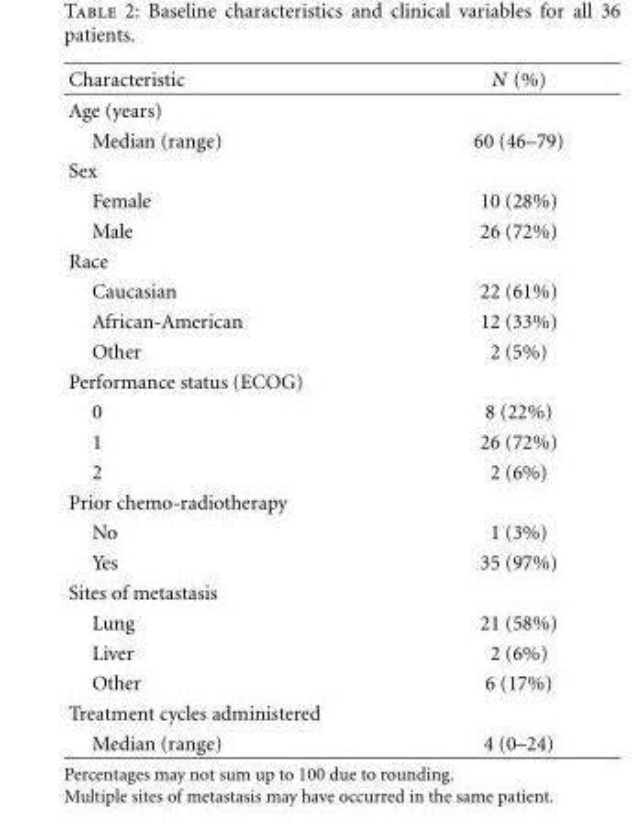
<table><thead><tr><td>Characteristic</td><td>N (%)</td></tr></thead><tbody><tr><td colspan="2">Age (years)</td></tr><tr><td>Median (range)</td><td>60 (46–79)</td></tr><tr><td colspan="2">Sex</td></tr><tr><td>Female</td><td>10 (28%)</td></tr><tr><td>Male</td><td>26 (72%)</td></tr><tr><td colspan="2">Race</td></tr><tr><td>Caucasian</td><td>22 (61%)</td></tr><tr><td>African-American</td><td>12 (33%)</td></tr><tr><td>Other</td><td>2 (5%)</td></tr><tr><td colspan="2">Performance status (ECOG)</td></tr><tr><td>0</td><td>8 (22%)</td></tr><tr><td>1</td><td>26 (72%)</td></tr><tr><td>2</td><td>2 (6%)</td></tr><tr><td colspan="2">Prior chemo-radiotherapy</td></tr><tr><td>No</td><td>1 (3%)</td></tr><tr><td>Yes</td><td>35 (97%)</td></tr><tr><td colspan="2">Sites of metastasis</td></tr><tr><td>Lung</td><td>21 (58%)</td></tr><tr><td>Liver</td><td>2 (6%)</td></tr><tr><td>Other</td><td>6 (17%)</td></tr><tr><td colspan="2">Treatment cycles administered</td></tr><tr><td>Median (range)</td><td>4 (0–24)</td></tr></tbody></table>